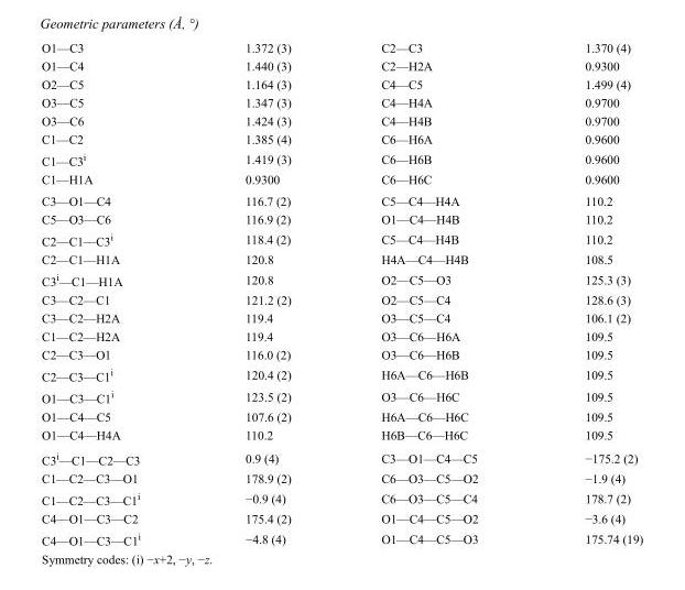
<table><tbody><tr><td>O1—C3</td><td>1.372 (3)</td><td>C2—C3</td><td>1.370 (4)</td></tr><tr><td>O1—C4</td><td>1.440 (3)</td><td>C2—H2A</td><td>0.9300</td></tr><tr><td>O2—C5</td><td>1.164 (3)</td><td>C4—C5</td><td>1.499 (4)</td></tr><tr><td>O3—C5</td><td>1.347 (3)</td><td>C4—H4A</td><td>0.9700</td></tr><tr><td>O3—C6</td><td>1.424 (3)</td><td>C4—H4B</td><td>0.9700</td></tr><tr><td>C1—C2</td><td>1.385 (4)</td><td>C6—H6A</td><td>0.9600</td></tr><tr><td>C1—C3<sup>i</sup></td><td>1.419 (3)</td><td>C6—H6B</td><td>0.9600</td></tr><tr><td>C1—H1A</td><td>0.9300</td><td>C6—H6C</td><td>0.9600</td></tr><tr><td>C3—O1—C4</td><td>116.7 (2)</td><td>C5—C4—H4A</td><td>110.2</td></tr><tr><td>C5—O3—C6</td><td>116.9 (2)</td><td>O1—C4—H4B</td><td>110.2</td></tr><tr><td>C2—C1—C3<sup>i</sup></td><td>118.4 (2)</td><td>C5—C4—H4B</td><td>110.2</td></tr><tr><td>C2—C1—H1A</td><td>120.8</td><td>H4A—C4—H4B</td><td>108.5</td></tr><tr><td>C3<sup>i</sup>—C1—H1A</td><td>120.8</td><td>O2—C5—O3</td><td>125.3 (3)</td></tr><tr><td>C3—C2—C1</td><td>121.2 (2)</td><td>O2—C5—C4</td><td>128.6 (3)</td></tr><tr><td>C3—C2—H2A</td><td>119.4</td><td>O3—C5—C4</td><td>106.1 (2)</td></tr><tr><td>C1—C2—H2A</td><td>119.4</td><td>O3—C6—H6A</td><td>109.5</td></tr><tr><td>C2—C3—O1</td><td>116.0 (2)</td><td>O3—C6—H6B</td><td>109.5</td></tr><tr><td>C2—C3—C1<sup>i</sup></td><td>120.4 (2)</td><td>H6A—C6—H6B</td><td>109.5</td></tr><tr><td>O1—C3—C1<sup>i</sup></td><td>123.5 (2)</td><td>O3—C6—H6C</td><td>109.5</td></tr><tr><td>O1—C4—C5</td><td>107.6 (2)</td><td>H6A—C6—H6C</td><td>109.5</td></tr><tr><td>O1—C4—H4A</td><td>110.2</td><td>H6B—C6—H6C</td><td>109.5</td></tr><tr><td>C3<sup>i</sup>—C1—C2—C3</td><td>0.9 (4)</td><td>C3—O1—C4—C5</td><td>−175.2 (2)</td></tr><tr><td>C1—C2—C3—O1</td><td>178.9 (2)</td><td>C6—O3—C5—O2</td><td>−1.9 (4)</td></tr><tr><td>C1—C2—C3—C1<sup>i</sup></td><td>−0.9 (4)</td><td>C6—O3—C5—C4</td><td>178.7 (2)</td></tr><tr><td>C4—O1—C3—C2</td><td>175.4 (2)</td><td>O1—C4—C5—O2</td><td>−3.6 (4)</td></tr><tr><td>C4—O1—C3—C1<sup>i</sup></td><td>−4.8 (4)</td><td>O1—C4—C5—O3</td><td>175.74 (19)</td></tr></tbody></table>